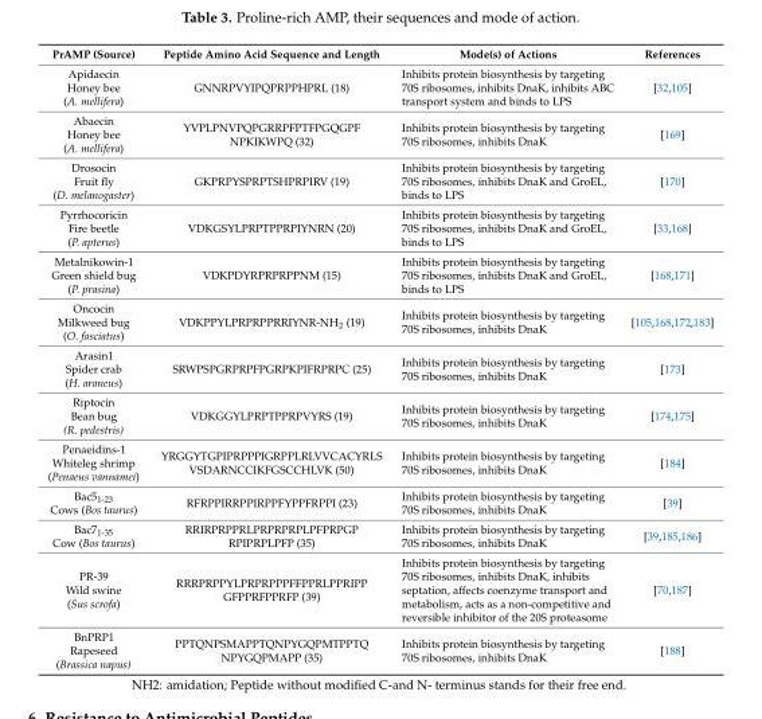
<table><thead><tr><td>PrAMP (Source)</td><td>Peptide Amino Acid Sequence and Length</td><td>Mode(s) of Actions</td><td>References</td></tr></thead><tbody><tr><td>Apidaecin Honey bee (A. mellifera)</td><td>GNNRPVYIPQPRPPHPRL (18)</td><td>Inhibits protein biosynthesis by targeting 70S ribosomes, inhibits DnaK, inhibits ABC transport system and binds to LPS</td><td>[32,105]</td></tr><tr><td>Abaecin Honey bee (A. mellifera)</td><td>YVPLPNVPQPGRRPFPTFPGQGPF NPKIKWPQ (32)</td><td>Inhibits protein biosynthesis by targeting 70S ribosomes, inhibits DnaK</td><td>[169]</td></tr><tr><td>Drosocin Fruit fly (D. melanogaster)</td><td>GKPRPYSPRPTSHPRPIRV (19)</td><td>Inhibits protein biosynthesis by targeting 70S ribosomes, inhibits DnaK and GroEL, binds to LPS</td><td>[170]</td></tr><tr><td>Pyrrhocoricin Fire beetle (P. apterus)</td><td>VDKGSYLPRPTPPRPIYNRN (20)</td><td>Inhibits protein biosynthesis by targeting 70S ribosomes, inhibits DnaK and GroEL, binds to LPS</td><td>[33,168]</td></tr><tr><td>Metalnikowin-1 Green shield bug (P. prasina)</td><td>VDKPDYRPRPRPPNM (15)</td><td>Inhibits protein biosynthesis by targeting 70S ribosomes, inhibits DnaK and GroEL, binds to LPS</td><td>[168,171]</td></tr><tr><td>Oncocin Milkweed bug (O. fasciatus)</td><td>VDKPPYLPRPRPPRRIYNR-NH<sub>2</sub> (19)</td><td>Inhibits protein biosynthesis by targeting 70S ribosomes, inhibits DnaK</td><td>[105,168,172,183]</td></tr><tr><td>Arasin1 Spider crab (H. araneus)</td><td>SRWPSPGRPRPFPGRPKPIFRPRPC (25)</td><td>Inhibits protein biosynthesis by targeting 70S ribosomes, inhibits DnaK</td><td>[173]</td></tr><tr><td>Riptocin Bean bug (R. pedestris)</td><td>VDKGGYLPRPTPPRPVYRS (19)</td><td>Inhibits protein biosynthesis by targeting 70S ribosomes, inhibits DnaK</td><td>[174,175]</td></tr><tr><td>Penaeidins-1 Whiteleg shrimp (Penaeus vannamei)</td><td>YRGGYTGPIPRPPPIGRPPLRLVVCACYRLS VSDARNCCIKFGSCCHLVK (50)</td><td>Inhibits protein biosynthesis by targeting 70S ribosomes, inhibits DnaK</td><td>[184]</td></tr><tr><td>Bac5<sub>1-23</sub> Cows (Bos taurus)</td><td>RFRPPIRRPPIRPPFYPPFRPPI (23)</td><td>Inhibits protein biosynthesis by targeting 70S ribosomes, inhibits DnaK</td><td>[39]</td></tr><tr><td>Bac7<sub>1-35</sub> Cow (Bos taurus)</td><td>RRIRPRPPRLPRPRPRPLPFPRPGP RPIPRPLPFP (35)</td><td>Inhibits protein biosynthesis by targeting 70S ribosomes, inhibits DnaK</td><td>[39,185,186]</td></tr><tr><td>PR-39 Wild swine (Sus scrofa)</td><td>RRRPRPPYLPRPRPPPFFPPRLPPRIPP GFPPRFPPRFP (39)</td><td>Inhibits protein biosynthesis by targeting 70S ribosomes, inhibits DnaK, inhibits septation, affects coenzyme transport and metabolism, acts as a non-competitive and reversible inhibitor of the 20S proteasome</td><td>[70,187]</td></tr><tr><td>BnPRP1 Rapeseed (Brassica napus)</td><td>PPTQNPSMAPPTQNPYGQPMTPPTQ NPYGQPMAPP (35)</td><td>Inhibits protein biosynthesis by targeting 70S ribosomes, inhibits DnaK</td><td>[188]</td></tr></tbody></table>